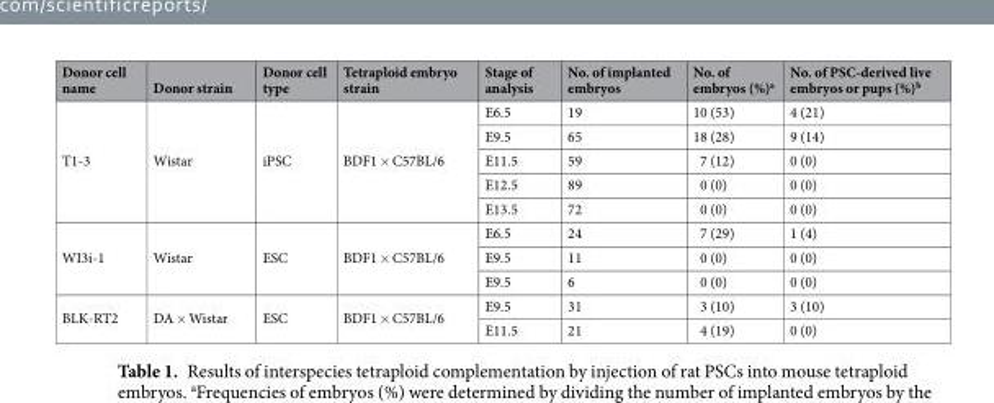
<table><thead><tr><td>Donor cell name</td><td>Donor strain</td><td>Donor cell type</td><td>Tetraploid embryo strain</td><td>Stage of analysis</td><td>No. of implanted embryos</td><td>No. of embryos (%)<sup>a</sup></td><td>No. of PSC-derived live embryos or pups (%)<sup>b</sup></td></tr></thead><tbody><tr><td rowspan="5">T1-3</td><td rowspan="5">Wistar</td><td rowspan="5">iPSC</td><td rowspan="5">BDF1 × C57BL/6</td><td>E6.5</td><td>19</td><td>10 (53)</td><td>4 (21)</td></tr><tr><td>E9.5</td><td>65</td><td>18 (28)</td><td>9 (14)</td></tr><tr><td>E11.5</td><td>59</td><td>7 (12)</td><td>0 (0)</td></tr><tr><td>E12.5</td><td>89</td><td>0 (0)</td><td>0 (0)</td></tr><tr><td>E13.5</td><td>72</td><td>0 (0)</td><td>0 (0)</td></tr><tr><td rowspan="3">WI3i-1</td><td rowspan="3">Wistar</td><td rowspan="3">ESC</td><td rowspan="3">BDF1 × C57BL/6</td><td>E6.5</td><td>24</td><td>7 (29)</td><td>1 (4)</td></tr><tr><td>E9.5</td><td>11</td><td>0 (0)</td><td>0 (0)</td></tr><tr><td>E9.5</td><td>6</td><td>0 (0)</td><td>0 (0)</td></tr><tr><td rowspan="2">BLK-RT2</td><td rowspan="2">DA × Wistar</td><td rowspan="2">ESC</td><td rowspan="2">BDF1 × C57BL/6</td><td>E9.5</td><td>31</td><td>3 (10)</td><td>3 (10)</td></tr><tr><td>E11.5</td><td>21</td><td>4 (19)</td><td>0 (0)</td></tr></tbody></table>